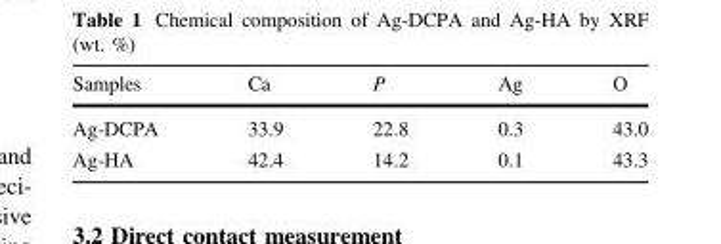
<table><thead><tr><td>Samples</td><td>Ca</td><td>P</td><td>Ag</td><td>O</td></tr></thead><tbody><tr><td>Ag-DCPA</td><td>33.9</td><td>22.8</td><td>0.3</td><td>43.0</td></tr><tr><td>Ag-HA</td><td>42.4</td><td>14.2</td><td>0.1</td><td>43.3</td></tr></tbody></table>